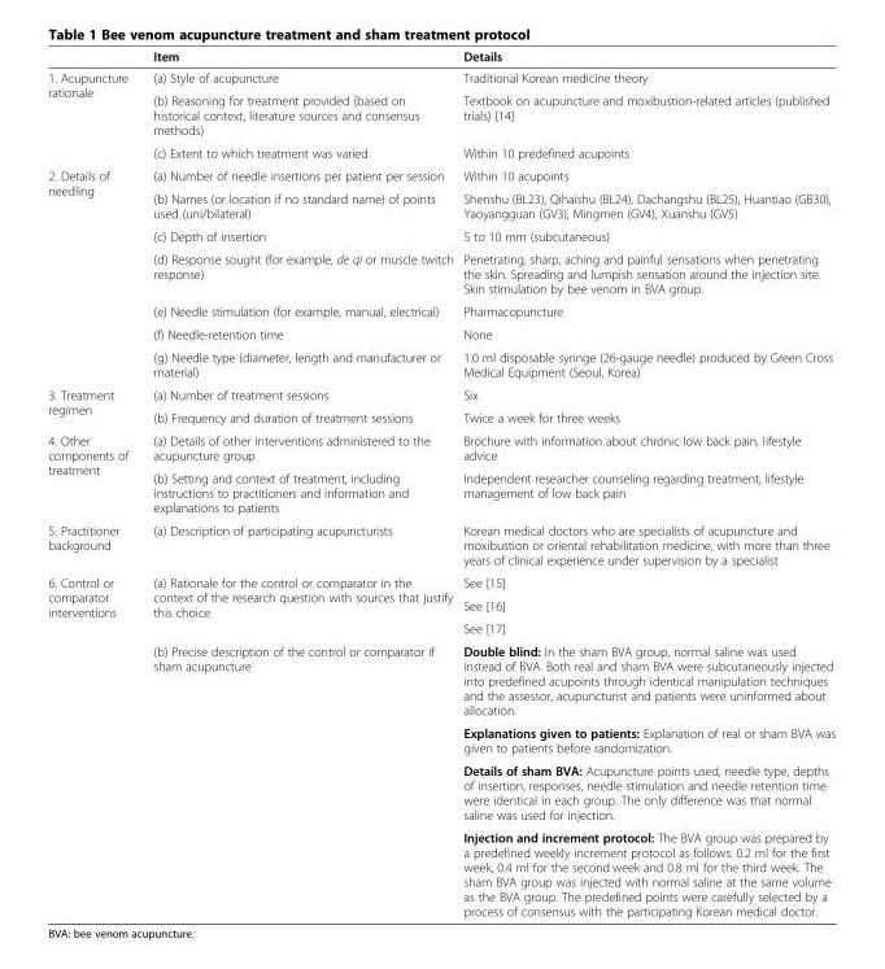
<table><thead><tr><td></td><td>Item</td><td>Details</td></tr></thead><tbody><tr><td rowspan="3">1. Acupuncture rationale</td><td>(a) Style of acupuncture</td><td>Traditional Korean medicine theory</td></tr><tr><td>(b) Reasoning for treatment provided (based on historical context, literature sources and consensus methods)</td><td>Textbook on acupuncture and moxibustion-related articles (published trials) [14]</td></tr><tr><td>(c) Extent to which treatment was varied</td><td>Within 10 predefined acupoints</td></tr><tr><td rowspan="7">2. Details of needling</td><td>(a) Number of needle insertions per patient per session</td><td>Within 10 acupoints</td></tr><tr><td>(b) Names (or location if no standard name) of points used (uni/bilateral)</td><td>Shenshu (BL23), Qihaishu (BL24), Dachangshu (BL25), Huantiao (GB30), Yaoyangguan (GV3), Mingmen (GV4), Xuanshu (GV5)</td></tr><tr><td>(c) Depth of insertion</td><td>5 to 10 mm (subcutaneous)</td></tr><tr><td>(d) Response sought (for example, de qi or muscle twitch response)</td><td>Penetrating, sharp, aching and painful sensations when penetrating the skin. Spreading and lumpish sensation around the injection site. Skin stimulation by bee venom in BVA group.</td></tr><tr><td>(e) Needle stimulation (for example, manual, electrical)</td><td>Pharmacopuncture</td></tr><tr><td>(f) Needle-retention time</td><td>None</td></tr><tr><td>(g) Needle type (diameter, length and manufacturer or material)</td><td>1.0 ml disposable syringe (26-gauge needle) produced by Green Cross Medical Equipment (Seoul, Korea)</td></tr><tr><td rowspan="2">3. Treatment regimen</td><td>(a) Number of treatment sessions</td><td>Six</td></tr><tr><td>(b) Frequency and duration of treatment sessions</td><td>Twice a week for three weeks</td></tr><tr><td rowspan="2">4. Other components of treatment</td><td>(a) Details of other interventions administered to the acupuncture group</td><td>Brochure with information about chronic low back pain, lifestyle advice</td></tr><tr><td>(b) Setting and context of treatment, including instructions to practitioners and information and explanations to patients</td><td>Independent researcher counseling regarding treatment, lifestyle management of low back pain</td></tr><tr><td>5. Practitioner background</td><td>(a) Description of participating acupuncturists</td><td>Korean medical doctors who are specialists of acupuncture and moxibustion or oriental rehabilitation medicine, with more than three years of clinical experience under supervision by a specialist</td></tr><tr><td rowspan="7">6. Control or comparator interventions</td><td rowspan="3">(a) Rationale for the control or comparator in the context of the research question with sources that justify this choice</td><td>See [15]</td></tr><tr><td>See [16]</td></tr><tr><td>See [17]</td></tr><tr><td rowspan="4">(b) Precise description of the control or comparator if sham acupuncture</td><td>Double blind: In the sham BVA group, normal saline was used instead of BVA. Both real and sham BVA were subcutaneously injected into predefined acupoints through identical manipulation techniques and the assessor, acupuncturist and patients were uninformed about allocation.</td></tr><tr><td>Explanations given to patients: Explanation of real or sham BVA was given to patients before randomization.</td></tr><tr><td>Details of sham BVA: Acupuncture points used, needle type, depths of insertion, responses, needle stimulation and needle retention time were identical in each group. The only difference was that normal saline was used for injection.</td></tr><tr><td>Injection and increment protocol: The BVA group was prepared by a predefined weekly increment protocol as follows: 0.2 ml for the first week, 0.4 ml for the second week and 0.8 ml for the third week. The sham BVA group was injected with normal saline at the same volume as the BVA group. The predefined points were carefully selected by a process of consensus with the participating Korean medical doctor.</td></tr></tbody></table>